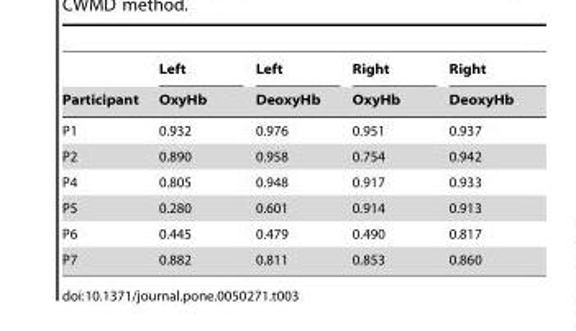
<table><thead><tr><td rowspan="2">Participant</td><td rowspan="2">Left OxyHb</td><td rowspan="2">Left DeoxyHb</td><td rowspan="2">Right OxyHb</td><td rowspan="2">Right DeoxyHb</td></tr><tr></tr></thead><tbody><tr><td>P1</td><td>0.932</td><td>0.976</td><td>0.951</td><td>0.937</td></tr><tr><td>P2</td><td>0.890</td><td>0.958</td><td>0.754</td><td>0.942</td></tr><tr><td>P4</td><td>0.805</td><td>0.948</td><td>0.917</td><td>0.933</td></tr><tr><td>P5</td><td>0.280</td><td>0.601</td><td>0.914</td><td>0.913</td></tr><tr><td>P6</td><td>0.445</td><td>0.479</td><td>0.490</td><td>0.817</td></tr><tr><td>P7</td><td>0.882</td><td>0.811</td><td>0.853</td><td>0.860</td></tr></tbody></table>